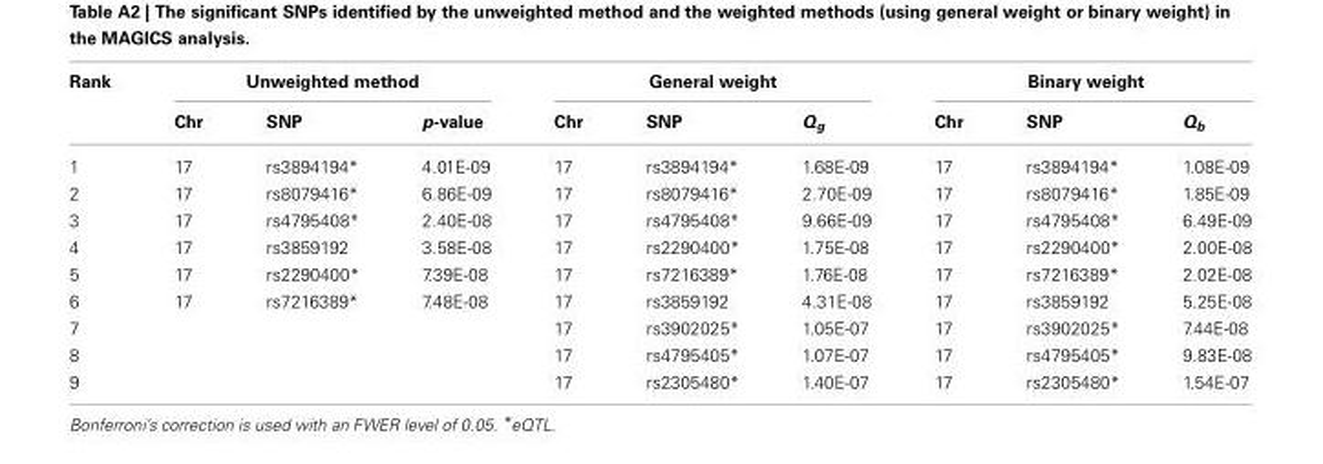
<table><thead><tr><td rowspan="2">Rank</td><td colspan="3">Unweighted method</td><td colspan="3">General weight</td><td colspan="3">Binary weight</td></tr><tr><td>Chr</td><td>SNP</td><td>p-value</td><td>Chr</td><td>SNP</td><td>Q<sub>g</sub></td><td>Chr</td><td>SNP</td><td>Q<sub>b</sub></td></tr></thead><tbody><tr><td>1</td><td>17</td><td>rs3894194*</td><td>4.01E-09</td><td>17</td><td>rs3894194*</td><td>1.68E-09</td><td>17</td><td>rs3894194*</td><td>1.08E-09</td></tr><tr><td>2</td><td>17</td><td>rs8079416*</td><td>6.86E-09</td><td>17</td><td>rs8079416*</td><td>2.70E-09</td><td>17</td><td>rs8079416*</td><td>1.85E-09</td></tr><tr><td>3</td><td>17</td><td>rs4795408*</td><td>2.40E-08</td><td>17</td><td>rs4795408*</td><td>9.66E-09</td><td>17</td><td>rs4795408*</td><td>6.49E-09</td></tr><tr><td>4</td><td>17</td><td>rs3859192</td><td>3.58E-08</td><td>17</td><td>rs2290400*</td><td>1.75E-08</td><td>17</td><td>rs2290400*</td><td>2.00E-08</td></tr><tr><td>5</td><td>17</td><td>rs2290400*</td><td>7.39E-08</td><td>17</td><td>rs7216389*</td><td>1.76E-08</td><td>17</td><td>rs7216389*</td><td>2.02E-08</td></tr><tr><td>6</td><td>17</td><td>rs7216389*</td><td>7.48E-08</td><td>17</td><td>rs3859192</td><td>4.31E-08</td><td>17</td><td>rs3859192</td><td>5.25E-08</td></tr><tr><td>7</td><td></td><td></td><td></td><td>17</td><td>rs3902025*</td><td>1.05E-07</td><td>17</td><td>rs3902025*</td><td>7.44E-08</td></tr><tr><td>8</td><td></td><td></td><td></td><td>17</td><td>rs4795405*</td><td>1.07E-07</td><td>17</td><td>rs4795405*</td><td>9.83E-08</td></tr><tr><td>9</td><td></td><td></td><td></td><td>17</td><td>rs2305480*</td><td>1.40E-07</td><td>17</td><td>rs2305480*</td><td>1.54E-07</td></tr></tbody></table>